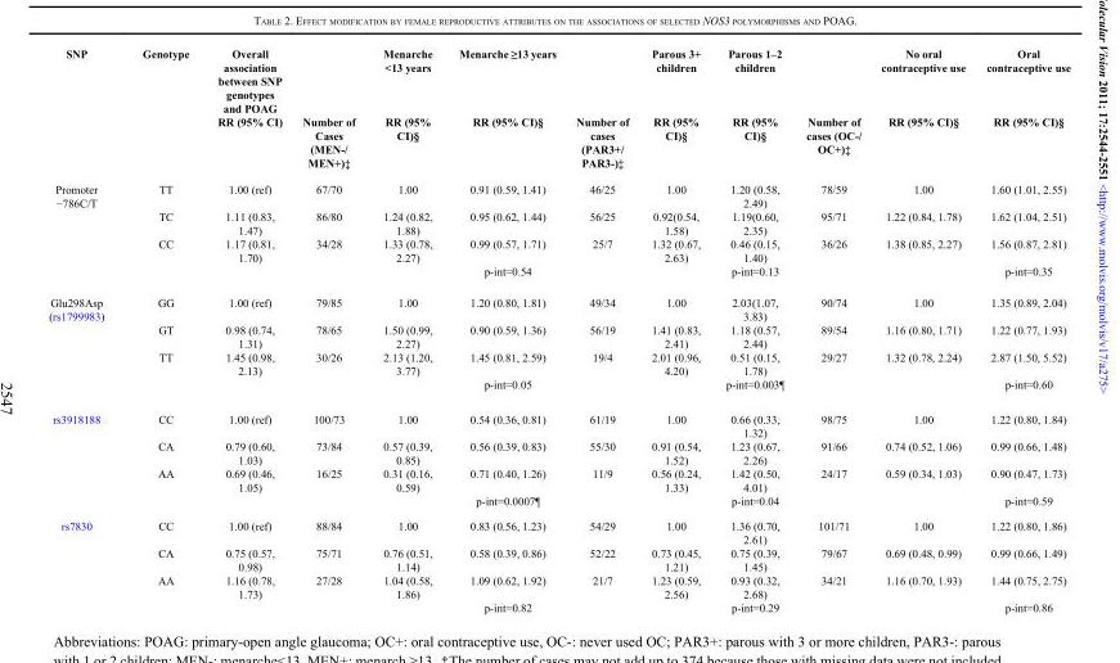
<table><thead><tr><td rowspan="2">SNP</td><td rowspan="2">Genotype</td><td rowspan="2">Overall association between SNP genotypes and POAG RR (95% CI)</td><td rowspan="2">Number of Cases (MEN-/ MEN+)‡</td><td rowspan="2">Menarche &lt;13 years RR (95% CI)§</td><td rowspan="2">Menarche ≥13 years RR (95% CI)§</td><td rowspan="2">Number of cases (PAR3+/ PAR3-)‡</td><td rowspan="2">Parous 3+ children RR (95% CI)§</td><td rowspan="2">Parous 1–2 children RR (95% CI)§</td><td rowspan="2">Number of cases (OC-/ OC+)‡</td><td rowspan="2">No oral contraceptive use RR (95% CI)§</td><td rowspan="2">Oral contraceptive use RR (95% CI)§</td></tr><tr></tr></thead><tbody><tr><td rowspan="4">Promoter −786C/T</td><td>TT</td><td>1.00 (ref)</td><td>67/70</td><td>1.00</td><td>0.91 (0.59, 1.41)</td><td>46/25</td><td>1.00</td><td>1.20 (0.58, 2.49)</td><td>78/59</td><td>1.00</td><td>1.60 (1.01, 2.55)</td></tr><tr><td>TC</td><td>1.11 (0.83, 1.47)</td><td>86/80</td><td>1.24 (0.82, 1.88)</td><td>0.95 (0.62, 1.44)</td><td>56/25</td><td>0.92(0.54, 1.58)</td><td>1.19(0.60, 2.35)</td><td>95/71</td><td>1.22 (0.84, 1.78)</td><td>1.62 (1.04, 2.51)</td></tr><tr><td>CC</td><td>1.17 (0.81, 1.70)</td><td>34/28</td><td>1.33 (0.78, 2.27)</td><td>0.99 (0.57, 1.71)</td><td>25/7</td><td>1.32 (0.67, 2.63)</td><td>0.46 (0.15, 1.40)</td><td>36/26</td><td>1.38 (0.85, 2.27)</td><td>1.56 (0.87, 2.81)</td></tr><tr><td></td><td></td><td></td><td></td><td>p-int=0.54</td><td></td><td></td><td>p-int=0.13</td><td></td><td></td><td>p-int=0.35</td></tr><tr><td rowspan="4">Glu298Asp (rs1799983)</td><td>GG</td><td>1.00 (ref)</td><td>79/85</td><td>1.00</td><td>1.20 (0.80, 1.81)</td><td>49/34</td><td>1.00</td><td>2.03(1.07, 3.83)</td><td>90/74</td><td>1.00</td><td>1.35 (0.89, 2.04)</td></tr><tr><td>GT</td><td>0.98 (0.74, 1.31)</td><td>78/65</td><td>1.50 (0.99, 2.27)</td><td>0.90 (0.59, 1.36)</td><td>56/19</td><td>1.41 (0.83, 2.41)</td><td>1.18 (0.57, 2.44)</td><td>89/54</td><td>1.16 (0.80, 1.71)</td><td>1.22 (0.77, 1.93)</td></tr><tr><td>TT</td><td>1.45 (0.98, 2.13)</td><td>30/26</td><td>2.13 (1.20, 3.77)</td><td>1.45 (0.81, 2.59)</td><td>19/4</td><td>2.01 (0.96, 4.20)</td><td>0.51 (0.15, 1.78)</td><td>29/27</td><td>1.32 (0.78, 2.24)</td><td>2.87 (1.50, 5.52)</td></tr><tr><td></td><td></td><td></td><td></td><td>p-int=0.05</td><td></td><td></td><td>p-int=0.003¶</td><td></td><td></td><td>p-int=0.60</td></tr><tr><td rowspan="4">rs3918188</td><td>CC</td><td>1.00 (ref)</td><td>100/73</td><td>1.00</td><td>0.54 (0.36, 0.81)</td><td>61/19</td><td>1.00</td><td>0.66 (0.33, 1.32)</td><td>98/75</td><td>1.00</td><td>1.22 (0.80, 1.84)</td></tr><tr><td>CA</td><td>0.79 (0.60, 1.03)</td><td>73/84</td><td>0.57 (0.39, 0.85)</td><td>0.56 (0.39, 0.83)</td><td>55/30</td><td>0.91 (0.54, 1.52)</td><td>1.23 (0.67, 2.26)</td><td>91/66</td><td>0.74 (0.52, 1.06)</td><td>0.99 (0.66, 1.48)</td></tr><tr><td>AA</td><td>0.69 (0.46, 1.05)</td><td>16/25</td><td>0.31 (0.16, 0.59)</td><td>0.71 (0.40, 1.26)</td><td>11/9</td><td>0.56 (0.24, 1.33)</td><td>1.42 (0.50, 4.01)</td><td>24/17</td><td>0.59 (0.34, 1.03)</td><td>0.90 (0.47, 1.73)</td></tr><tr><td></td><td></td><td></td><td></td><td>p-int=0.0007¶</td><td></td><td></td><td>p-int=0.04</td><td></td><td></td><td>p-int=0.59</td></tr><tr><td rowspan="4">rs7830</td><td>CC</td><td>1.00 (ref)</td><td>88/84</td><td>1.00</td><td>0.83 (0.56, 1.23)</td><td>54/29</td><td>1.00</td><td>1.36 (0.70, 2.61)</td><td>101/71</td><td>1.00</td><td>1.22 (0.80, 1.86)</td></tr><tr><td>CA</td><td>0.75 (0.57, 0.98)</td><td>75/71</td><td>0.76 (0.51, 1.14)</td><td>0.58 (0.39, 0.86)</td><td>52/22</td><td>0.73 (0.45, 1.21)</td><td>0.75 (0.39, 1.45)</td><td>79/67</td><td>0.69 (0.48, 0.99)</td><td>0.99 (0.66, 1.49)</td></tr><tr><td>AA</td><td>1.16 (0.78, 1.73)</td><td>27/28</td><td>1.04 (0.58, 1.86)</td><td>1.09 (0.62, 1.92)</td><td>21/7</td><td>1.23 (0.59, 2.56)</td><td>0.93 (0.32, 2.68)</td><td>34/21</td><td>1.16 (0.70, 1.93)</td><td>1.44 (0.75, 2.75)</td></tr><tr><td></td><td></td><td></td><td></td><td>p-int=0.82</td><td></td><td></td><td>p-int=0.29</td><td></td><td></td><td>p-int=0.86</td></tr></tbody></table>